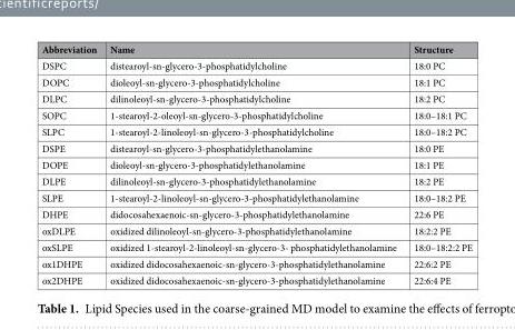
<table><thead><tr><td>Abbreviation</td><td>Name</td><td>Structure</td></tr></thead><tbody><tr><td>DSPC</td><td>distearoyl-sn-glycero-3-phosphatidylcholine</td><td>18:0 PC</td></tr><tr><td>DOPC</td><td>dioleoyl-sn-glycero-3-phosphatidylcholine</td><td>18:1 PC</td></tr><tr><td>DLPC</td><td>dilinoleoyl-sn-glycero-3-phosphatidylcholine</td><td>18:2 PC</td></tr><tr><td>SOPC</td><td>1-stearoyl-2-oleoyl-sn-glycero-3-phosphatidylcholine</td><td>18:0–18:1 PC</td></tr><tr><td>SLPC</td><td>1-stearoyl-2-linoleoyl-sn-glycero-3-phosphatidylcholine</td><td>18:0–18:2 PC</td></tr><tr><td>DSPE</td><td>distearoyl-sn-glycero-3-phosphatidylethanolamine</td><td>18:0 PE</td></tr><tr><td>DOPE</td><td>dioleoyl-sn-glycero-3-phosphatidylethanolamine</td><td>18:1 PE</td></tr><tr><td>DLPE</td><td>dilinoleoyl-sn-glycero-3-phosphatidylethanolamine</td><td>18:2 PE</td></tr><tr><td>SLPE</td><td>1-stearoyl-2-linoleoyl-sn-glycero-3-phosphatidylethanolamine</td><td>18:0–18:2 PE</td></tr><tr><td>DHPE</td><td>didocosahexaenoic-sn-glycero-3-phosphatidylethanolamine</td><td>22:6 PE</td></tr><tr><td>oxDLPE</td><td>oxidized dilinoleoyl-sn-glycero-3-phosphatidylethanolamine</td><td>18:2:2 PE</td></tr><tr><td>oxSLPE</td><td>oxidized 1-stearoyl-2-linoleoyl-sn-glycero-3- phosphatidylethanolamine</td><td>18:0–18:2:2 PE</td></tr><tr><td>ox1DHPE</td><td>oxidized didocosahexaenoic-sn-glycero-3-phosphatidylethanolamine</td><td>22:6:2 PE</td></tr><tr><td>ox2DHPE</td><td>oxidized didocosahexaenoic-sn-glycero-3-phosphatidylethanolamine</td><td>22:6:4 PE</td></tr></tbody></table>